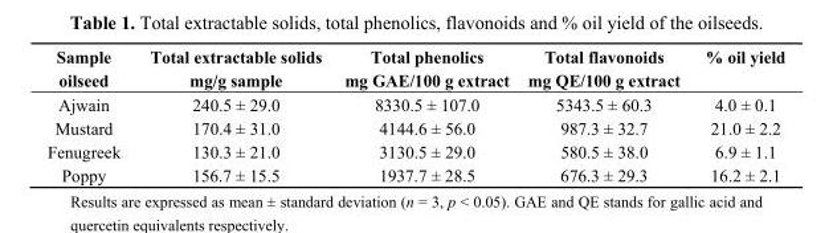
<table><thead><tr><td>Sample oilseed</td><td>Total extractable solids mg/g sample</td><td>Total phenolics mg GAE/100 g extract</td><td>Total flavonoids mg QE/100 g extract</td><td>% oil yield</td></tr></thead><tbody><tr><td>Ajwain</td><td>240.5 ± 29.0</td><td>8330.5 ± 107.0</td><td>5343.5 ± 60.3</td><td>4.0 ± 0.1</td></tr><tr><td>Mustard</td><td>170.4 ± 31.0</td><td>4144.6 ± 56.0</td><td>987.3 ± 32.7</td><td>21.0 ± 2.2</td></tr><tr><td>Fenugreek</td><td>130.3 ± 21.0</td><td>3130.5 ± 29.0</td><td>580.5 ± 38.0</td><td>6.9 ± 1.1</td></tr><tr><td>Poppy</td><td>156.7 ± 15.5</td><td>1937.7 ± 28.5</td><td>676.3 ± 29.3</td><td>16.2 ± 2.1</td></tr></tbody></table>